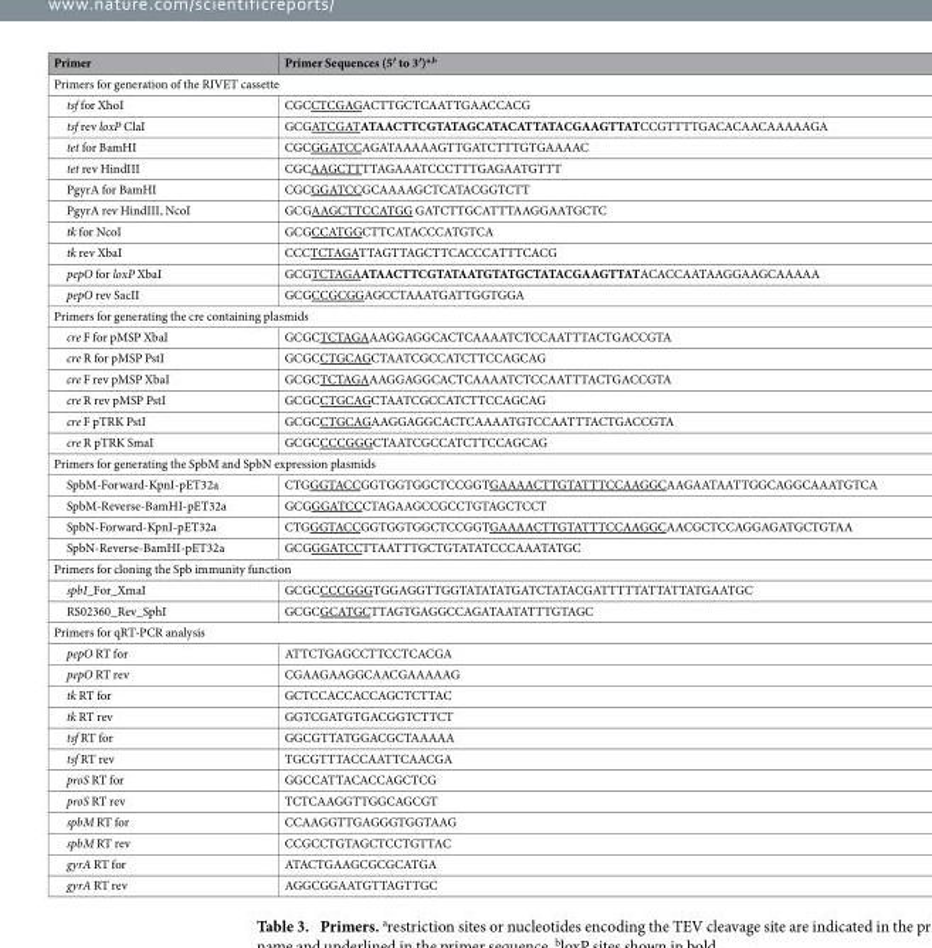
<table><thead><tr><td>Primer</td><td>Primer Sequences (5′ to 3′)<sup>a,b</sup></td></tr></thead><tbody><tr><td colspan="2">Primers for generation of the RIVET cassette</td></tr><tr><td>tsf for XhoI</td><td>CGCCTCGAGACTTGCTCAATTGAACCACG</td></tr><tr><td>tsf rev loxP ClaI</td><td>GCGATCGATATAACTTCGTATAGCATACATTATACGAAGTTATCCGTTTTGACACAACAAAAAGA</td></tr><tr><td>tet for BamHI</td><td>CGCGGATCCAGATAAAAAGTTGATCTTTGTGAAAAC</td></tr><tr><td>tet rev HindIII</td><td>CGCAAGCTTTTAGAAATCCCTTTGAGAATGTTT</td></tr><tr><td>PgyrA for BamHI</td><td>CGCGGATCCGCAAAAGCTCATACGGTCTT</td></tr><tr><td>PgyrA rev HindIII, NcoI</td><td>GCGAAGCTTCCATGG GATCTTGCATTTAAGGAATGCTC</td></tr><tr><td>tk for NcoI</td><td>GCGCCATGGCTTCATACCCATGTCA</td></tr><tr><td>tk rev XbaI</td><td>CCCTCTAGATTAGTTAGCTTCACCCATTTCACG</td></tr><tr><td>pepO for loxP XbaI</td><td>GCGTCTAGAATAACTTCGTATAATGTATGCTATACGAAGTTATACACCAATAAGGAAGCAAAAA</td></tr><tr><td>pepO rev SacII</td><td>GCGCCGCGGAGCCTAAATGATTGGTGGA</td></tr><tr><td colspan="2">Primers for generating the cre containing plasmids</td></tr><tr><td>cre F for pMSP XbaI</td><td>GCGCTCTAGAAAGGAGGCACTCAAAATCTCCAATTTACTGACCGTA</td></tr><tr><td>cre R for pMSP PstI</td><td>GCGCCTGCAGCTAATCGCCATCTTCCAGCAG</td></tr><tr><td>cre F rev pMSP XbaI</td><td>GCGCTCTAGAAAGGAGGCACTCAAAATCTCCAATTTACTGACCGTA</td></tr><tr><td>cre R rev pMSP PstI</td><td>GCGCCTGCAGCTAATCGCCATCTTCCAGCAG</td></tr><tr><td>cre F pTRK PstI</td><td>GCGCCTGCAGAAGGAGGCACTCAAAATGTCCAATTTACTGACCGTA</td></tr><tr><td>cre R pTRK SmaI</td><td>GCGCCCCGGGCTAATCGCCATCTTCCAGCAG</td></tr><tr><td colspan="2">Primers for generating the SpbM and SpbN expression plasmids</td></tr><tr><td>SpbM-Forward-KpnI-pET32a</td><td>CTGGGTACCGGTGGTGGCTCCGGTGAAAACTTGTATTTCCAAGGCAAGAATAATTGGCAGGCAAATGTCA</td></tr><tr><td>SpbM-Reverse-BamHI-pET32a</td><td>GCGGGATCCCTAGAAGCCGCCTGTAGCTCCT</td></tr><tr><td>SpbN-Forward-KpnI-pET32a</td><td>CTGGGTACCGGTGGTGGCTCCGGTGAAAACTTGTATTTCCAAGGCAACGCTCCAGGAGATGCTGTAA</td></tr><tr><td>SpbN-Reverse-BamHI-pET32a</td><td>GCGGGATCCTTAATTTGCTGTATATCCCAAATATGC</td></tr><tr><td colspan="2">Primers for cloning the Spb immunity function</td></tr><tr><td>spbI_For_XmaI</td><td>GCGCCCCGGGTGGAGGTTGGTATATATGATCTATACGATTTTTATTATTATGAATGC</td></tr><tr><td>RS02360_Rev_SphI</td><td>GCGCGCATGCTTAGTGAGGCCAGATAATATTTGTAGC</td></tr><tr><td colspan="2">Primers for qRT-PCR analysis</td></tr><tr><td>pepO RT for</td><td>ATTCTGAGCCTTCCTCACGA</td></tr><tr><td>pepO RT rev</td><td>CGAAGAAGGCAACGAAAAAG</td></tr><tr><td>tk RT for</td><td>GCTCCACCACCAGCTCTTAC</td></tr><tr><td>tk RT rev</td><td>GGTCGATGTGACGGTCTTCT</td></tr><tr><td>tsf RT for</td><td>GGCGTTATGGACGCTAAAAA</td></tr><tr><td>tsf RT rev</td><td>TGCGTTTACCAATTCAACGA</td></tr><tr><td>proS RT for</td><td>GGCCATTACACCAGCTCG</td></tr><tr><td>proS RT rev</td><td>TCTCAAGGTTGGCAGCGT</td></tr><tr><td>spbM RT for</td><td>CCAAGGTTGAGGGTGGTAAG</td></tr><tr><td>spbM RT rev</td><td>CCGCCTGTAGCTCCTGTTAC</td></tr><tr><td>gyrA RT for</td><td>ATACTGAAGCGCGCATGA</td></tr><tr><td>gyrA RT rev</td><td>AGGCGGAATGTTAGTTGC</td></tr></tbody></table>